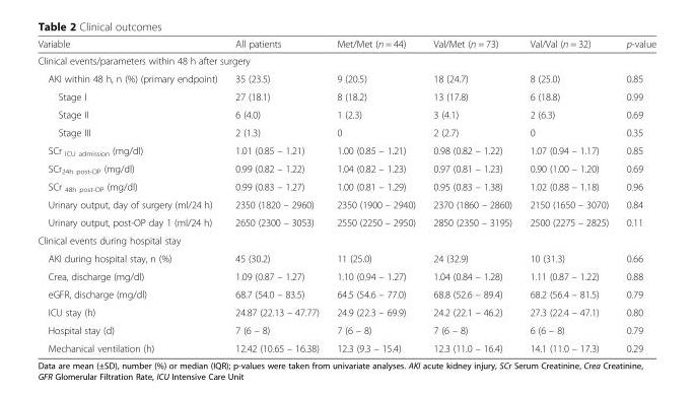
<table><thead><tr><td>Variable</td><td>All patients</td><td>Met/Met (n = 44)</td><td>Val/Met (n = 73)</td><td>Val/Val (n = 32)</td><td>p-value</td></tr></thead><tbody><tr><td colspan="6">Clinical events/parameters within 48 h after surgery</td></tr><tr><td>AKI within 48 h, n (%) (primary endpoint)</td><td>35 (23.5)</td><td>9 (20.5)</td><td>18 (24.7)</td><td>8 (25.0)</td><td>0.85</td></tr><tr><td>Stage I</td><td>27 (18.1)</td><td>8 (18.2)</td><td>13 (17.8)</td><td>6 (18.8)</td><td>0.99</td></tr><tr><td>Stage II</td><td>6 (4.0)</td><td>1 (2.3)</td><td>3 (4.1)</td><td>2 (6.3)</td><td>0.69</td></tr><tr><td>Stage III</td><td>2 (1.3)</td><td>0</td><td>2 (2.7)</td><td>0</td><td>0.35</td></tr><tr><td>SCr <sub>ICU admission</sub> (mg/dl)</td><td>1.01 (0.85 – 1.21)</td><td>1.00 (0.85 – 1.21)</td><td>0.98 (0.82 – 1.22)</td><td>1.07 (0.94 – 1.17)</td><td>0.85</td></tr><tr><td>SCr<sub>24h post-OP</sub> (mg/dl)</td><td>0.99 (0.82 – 1.22)</td><td>1.04 (0.82 – 1.23)</td><td>0.97 (0.81 – 1.23)</td><td>0.90 (1.00 – 1.20)</td><td>0.69</td></tr><tr><td>SCr <sub>48h post-OP</sub> (mg/dl)</td><td>0.99 (0.83 – 1.27)</td><td>1.00 (0.81 – 1.29)</td><td>0.95 (0.83 – 1.38)</td><td>1.02 (0.88 – 1.18)</td><td>0.96</td></tr><tr><td>Urinary output, day of surgery (ml/24 h)</td><td>2350 (1820 – 2960)</td><td>2350 (1900 – 2940)</td><td>2370 (1860 – 2860)</td><td>2150 (1650 – 3070)</td><td>0.84</td></tr><tr><td>Urinary output, post-OP day 1 (ml/24 h)</td><td>2650 (2300 – 3053)</td><td>2550 (2250 – 2950)</td><td>2850 (2350 – 3195)</td><td>2500 (2275 – 2825)</td><td>0.11</td></tr><tr><td colspan="6">Clinical events during hospital stay</td></tr><tr><td>AKI during hospital stay, n (%)</td><td>45 (30.2)</td><td>11 (25.0)</td><td>24 (32.9)</td><td>10 (31.3)</td><td>0.66</td></tr><tr><td>Crea, discharge (mg/dl)</td><td>1.09 (0.87 – 1.27)</td><td>1.10 (0.94 – 1.27)</td><td>1.04 (0.84 – 1.28)</td><td>1.11 (0.87 – 1.22)</td><td>0.88</td></tr><tr><td>eGFR, discharge (mg/dl)</td><td>68.7 (54.0 – 83.5)</td><td>64.5 (54.6 – 77.0)</td><td>68.8 (52.6 – 89.4)</td><td>68.2 (56.4 – 81.5)</td><td>0.79</td></tr><tr><td>ICU stay (h)</td><td>24.87 (22.13 – 47.77)</td><td>24.9 (22.3 – 69.9)</td><td>24.2 (22.1 – 46.2)</td><td>27.3 (22.4 – 47.1)</td><td>0.80</td></tr><tr><td>Hospital stay (d)</td><td>7 (6 – 8)</td><td>7 (6 – 8)</td><td>7 (6 – 8)</td><td>6 (6 – 8)</td><td>0.79</td></tr><tr><td>Mechanical ventilation (h)</td><td>12.42 (10.65 – 16.38)</td><td>12.3 (9.3 – 15.4)</td><td>12.3 (11.0 – 16.4)</td><td>14.1 (11.0 – 17.3)</td><td>0.29</td></tr></tbody></table>